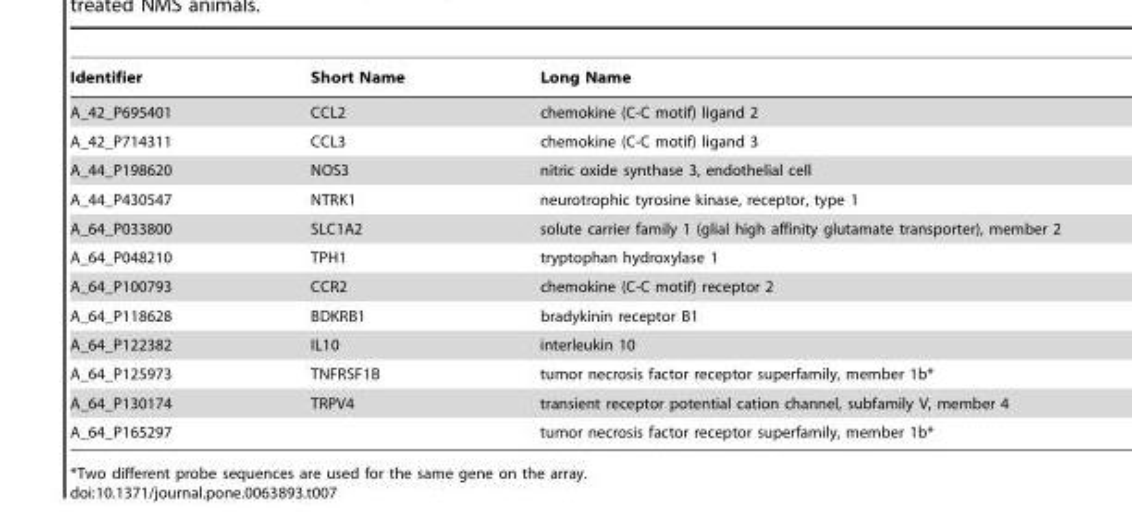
<table><thead><tr><td>Identifier</td><td>Short Name</td><td>Long Name</td></tr></thead><tbody><tr><td>A_42_P695401</td><td>CCL2</td><td>chemokine (C-C motif) ligand 2</td></tr><tr><td>A_42_P714311</td><td>CCL3</td><td>chemokine (C-C motif) ligand 3</td></tr><tr><td>A_44_P198620</td><td>NOS3</td><td>nitric oxide synthase 3, endothelial cell</td></tr><tr><td>A_44_P430547</td><td>NTRK1</td><td>neurotrophic tyrosine kinase, receptor, type 1</td></tr><tr><td>A_64_P033800</td><td>SLC1A2</td><td>solute carrier family 1 (glial high affinity glutamate transporter), member 2</td></tr><tr><td>A_64_P048210</td><td>TPH1</td><td>tryptophan hydroxylase 1</td></tr><tr><td>A_64_P100793</td><td>CCR2</td><td>chemokine (C-C motif) receptor 2</td></tr><tr><td>A_64_P118628</td><td>BDKRB1</td><td>bradykinin receptor B1</td></tr><tr><td>A_64_P122382</td><td>IL10</td><td>interleukin 10</td></tr><tr><td>A_64_P125973</td><td>TNFRSF1B</td><td>tumor necrosis factor receptor superfamily, member 1b*</td></tr><tr><td>A_64_P130174</td><td>TRPV4</td><td>transient receptor potential cation channel, subfamily V, member 4</td></tr><tr><td>A_64_P165297</td><td></td><td>tumor necrosis factor receptor superfamily, member 1b*</td></tr></tbody></table>